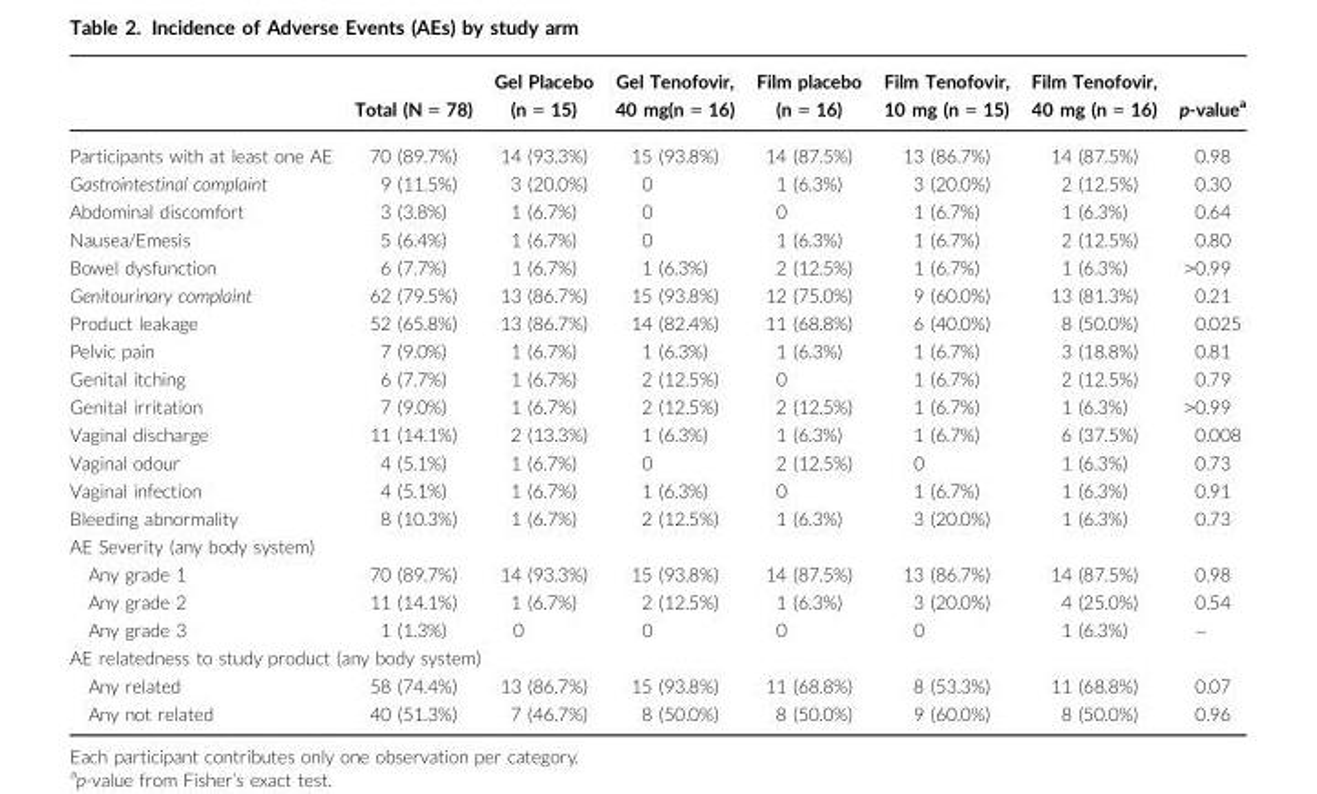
<table><thead><tr><td></td><td>Total (N = 78)</td><td>Gel Placebo (n = 15)</td><td>Gel Tenofovir, 40 mg(n = 16)</td><td>Film placebo (n = 16)</td><td>Film Tenofovir, 10 mg (n = 15)</td><td>Film Tenofovir, 40 mg (n = 16)</td><td>p-value<sup>a</sup></td></tr></thead><tbody><tr><td>Participants with at least one AE</td><td>70 (89.7%)</td><td>14 (93.3%)</td><td>15 (93.8%)</td><td>14 (87.5%)</td><td>13 (86.7%)</td><td>14 (87.5%)</td><td>0.98</td></tr><tr><td>Gastrointestinal complaint</td><td>9 (11.5%)</td><td>3 (20.0%)</td><td>0</td><td>1 (6.3%)</td><td>3 (20.0%)</td><td>2 (12.5%)</td><td>0.30</td></tr><tr><td>Abdominal discomfort</td><td>3 (3.8%)</td><td>1 (6.7%)</td><td>0</td><td>0</td><td>1 (6.7%)</td><td>1 (6.3%)</td><td>0.64</td></tr><tr><td>Nausea/Emesis</td><td>5 (6.4%)</td><td>1 (6.7%)</td><td>0</td><td>1 (6.3%)</td><td>1 (6.7%)</td><td>2 (12.5%)</td><td>0.80</td></tr><tr><td>Bowel dysfunction</td><td>6 (7.7%)</td><td>1 (6.7%)</td><td>1 (6.3%)</td><td>2 (12.5%)</td><td>1 (6.7%)</td><td>1 (6.3%)</td><td>&gt;0.99</td></tr><tr><td>Genitourinary complaint</td><td>62 (79.5%)</td><td>13 (86.7%)</td><td>15 (93.8%)</td><td>12 (75.0%)</td><td>9 (60.0%)</td><td>13 (81.3%)</td><td>0.21</td></tr><tr><td>Product leakage</td><td>52 (65.8%)</td><td>13 (86.7%)</td><td>14 (82.4%)</td><td>11 (68.8%)</td><td>6 (40.0%)</td><td>8 (50.0%)</td><td>0.025</td></tr><tr><td>Pelvic pain</td><td>7 (9.0%)</td><td>1 (6.7%)</td><td>1 (6.3%)</td><td>1 (6.3%)</td><td>1 (6.7%)</td><td>3 (18.8%)</td><td>0.81</td></tr><tr><td>Genital itching</td><td>6 (7.7%)</td><td>1 (6.7%)</td><td>2 (12.5%)</td><td>0</td><td>1 (6.7%)</td><td>2 (12.5%)</td><td>0.79</td></tr><tr><td>Genital irritation</td><td>7 (9.0%)</td><td>1 (6.7%)</td><td>2 (12.5%)</td><td>2 (12.5%)</td><td>1 (6.7%)</td><td>1 (6.3%)</td><td>&gt;0.99</td></tr><tr><td>Vaginal discharge</td><td>11 (14.1%)</td><td>2 (13.3%)</td><td>1 (6.3%)</td><td>1 (6.3%)</td><td>1 (6.7%)</td><td>6 (37.5%)</td><td>0.008</td></tr><tr><td>Vaginal odour</td><td>4 (5.1%)</td><td>1 (6.7%)</td><td>0</td><td>2 (12.5%)</td><td>0</td><td>1 (6.3%)</td><td>0.73</td></tr><tr><td>Vaginal infection</td><td>4 (5.1%)</td><td>1 (6.7%)</td><td>1 (6.3%)</td><td>0</td><td>1 (6.7%)</td><td>1 (6.3%)</td><td>0.91</td></tr><tr><td>Bleeding abnormality</td><td>8 (10.3%)</td><td>1 (6.7%)</td><td>2 (12.5%)</td><td>1 (6.3%)</td><td>3 (20.0%)</td><td>1 (6.3%)</td><td>0.73</td></tr><tr><td colspan="8">AE Severity (any body system)</td></tr><tr><td>Any grade 1</td><td>70 (89.7%)</td><td>14 (93.3%)</td><td>15 (93.8%)</td><td>14 (87.5%)</td><td>13 (86.7%)</td><td>14 (87.5%)</td><td>0.98</td></tr><tr><td>Any grade 2</td><td>11 (14.1%)</td><td>1 (6.7%)</td><td>2 (12.5%)</td><td>1 (6.3%)</td><td>3 (20.0%)</td><td>4 (25.0%)</td><td>0.54</td></tr><tr><td>Any grade 3</td><td>1 (1.3%)</td><td>0</td><td>0</td><td>0</td><td>0</td><td>1 (6.3%)</td><td>–</td></tr><tr><td colspan="8">AE relatedness to study product (any body system)</td></tr><tr><td>Any related</td><td>58 (74.4%)</td><td>13 (86.7%)</td><td>15 (93.8%)</td><td>11 (68.8%)</td><td>8 (53.3%)</td><td>11 (68.8%)</td><td>0.07</td></tr><tr><td>Any not related</td><td>40 (51.3%)</td><td>7 (46.7%)</td><td>8 (50.0%)</td><td>8 (50.0%)</td><td>9 (60.0%)</td><td>8 (50.0%)</td><td>0.96</td></tr></tbody></table>